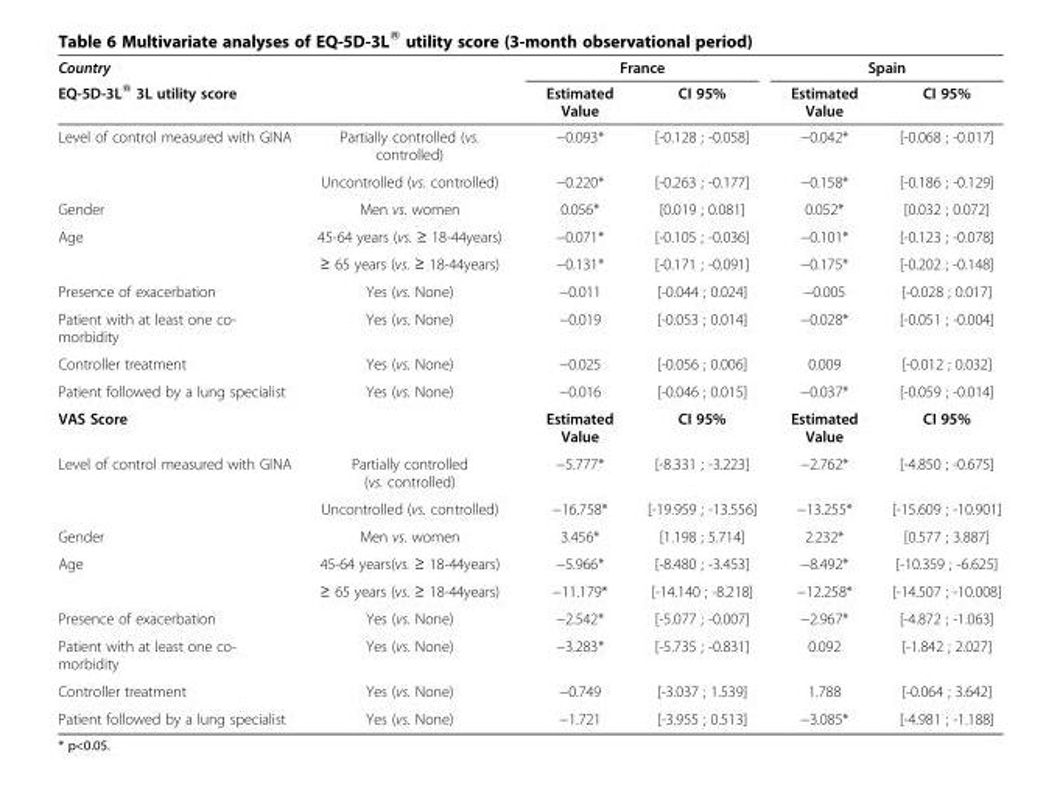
<table><thead><tr><td>Country</td><td></td><td colspan="2">France</td><td colspan="2">Spain</td></tr><tr><td colspan="2">EQ-5D-3L® 3L utility score</td><td>Estimated Value</td><td>CI 95%</td><td>Estimated Value</td><td>CI 95%</td></tr></thead><tbody><tr><td rowspan="2">Level of control measured with GINA</td><td>Partially controlled (vs. controlled)</td><td>−0.093*</td><td>[-0.128 ; -0.058]</td><td>−0.042*</td><td>[-0.068 ; -0.017]</td></tr><tr><td>Uncontrolled (vs. controlled)</td><td>−0.220*</td><td>[-0.263 ; -0.177]</td><td>−0.158*</td><td>[-0.186 ; -0.129]</td></tr><tr><td>Gender</td><td>Men vs. women</td><td>0.056*</td><td>[0.019 ; 0.081]</td><td>0.052*</td><td>[0.032 ; 0.072]</td></tr><tr><td rowspan="2">Age</td><td>45-64 years (vs. ≥ 18-44years)</td><td>−0.071*</td><td>[-0.105 ; -0.036]</td><td>−0.101*</td><td>[-0.123 ; -0.078]</td></tr><tr><td>≥ 65 years (vs. ≥ 18-44years)</td><td>−0.131*</td><td>[-0.171 ; -0.091]</td><td>−0.175*</td><td>[-0.202 ; -0.148]</td></tr><tr><td>Presence of exacerbation</td><td>Yes (vs. None)</td><td>−0.011</td><td>[-0.044 ; 0.024]</td><td>−0.005</td><td>[-0.028 ; 0.017]</td></tr><tr><td>Patient with at least one co- morbidity</td><td>Yes (vs. None)</td><td>−0.019</td><td>[-0.053 ; 0.014]</td><td>−0.028*</td><td>[-0.051 ; -0.004]</td></tr><tr><td>Controller treatment</td><td>Yes (vs. None)</td><td>−0.025</td><td>[-0.056 ; 0.006]</td><td>0.009</td><td>[-0.012 ; 0.032]</td></tr><tr><td>Patient followed by a lung specialist</td><td>Yes (vs. None)</td><td>−0.016</td><td>[-0.046 ; 0.015]</td><td>−0.037*</td><td>[-0.059 ; -0.014]</td></tr><tr><td>VAS Score</td><td></td><td>Estimated Value</td><td>CI 95%</td><td>Estimated Value</td><td>CI 95%</td></tr><tr><td rowspan="2">Level of control measured with GINA</td><td>Partially controlled (vs. controlled)</td><td>−5.777*</td><td>[-8.331 ; -3.223]</td><td>−2.762*</td><td>[-4.850 ; -0.675]</td></tr><tr><td>Uncontrolled (vs. controlled)</td><td>−16.758*</td><td>[-19.959 ; -13.556]</td><td>−13.255*</td><td>[-15.609 ; -10.901]</td></tr><tr><td>Gender</td><td>Men vs. women</td><td>3.456*</td><td>[1.198 ; 5.714]</td><td>2.232*</td><td>[0.577 ; 3.887]</td></tr><tr><td rowspan="2">Age</td><td>45-64 years(vs. ≥ 18-44years)</td><td>−5.966*</td><td>[-8.480 ; -3.453]</td><td>−8.492*</td><td>[-10.359 ; -6.625]</td></tr><tr><td>≥ 65 years (vs. ≥ 18-44years)</td><td>−11.179*</td><td>[-14.140 ; -8.218]</td><td>−12.258*</td><td>[-14.507 ; -10.008]</td></tr><tr><td>Presence of exacerbation</td><td>Yes (vs. None)</td><td>−2.542*</td><td>[-5.077 ; -0.007]</td><td>−2.967*</td><td>[-4.872 ; -1.063]</td></tr><tr><td>Patient with at least one co- morbidity</td><td>Yes (vs. None)</td><td>−3.283*</td><td>[-5.735 ; -0.831]</td><td>0.092</td><td>[-1.842 ; 2.027]</td></tr><tr><td>Controller treatment</td><td>Yes (vs. None)</td><td>−0.749</td><td>[-3.037 ; 1.539]</td><td>1.788</td><td>[-0.064 ; 3.642]</td></tr><tr><td>Patient followed by a lung specialist</td><td>Yes (vs. None)</td><td>−1.721</td><td>[-3.955 ; 0.513]</td><td>−3.085*</td><td>[-4.981 ; -1.188]</td></tr></tbody></table>